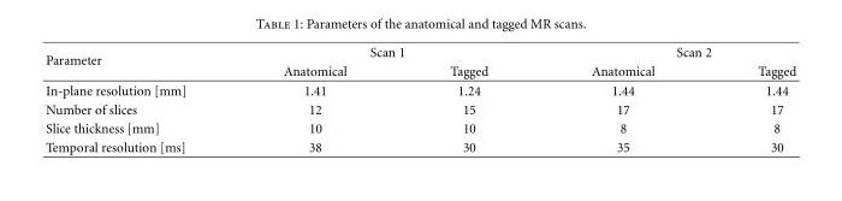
<table><thead><tr><td rowspan="2">Parameter</td><td colspan="2">Scan 1</td><td colspan="2">Scan 2</td></tr><tr><td>Anatomical</td><td>Tagged</td><td>Anatomical</td><td>Tagged</td></tr></thead><tbody><tr><td>In-plane resolution [mm]</td><td>1.41</td><td>1.24</td><td>1.44</td><td>1.44</td></tr><tr><td>Number of slices</td><td>12</td><td>15</td><td>17</td><td>17</td></tr><tr><td>Slice thickness [mm]</td><td>10</td><td>10</td><td>8</td><td>8</td></tr><tr><td>Temporal resolution [ms]</td><td>38</td><td>30</td><td>35</td><td>30</td></tr></tbody></table>